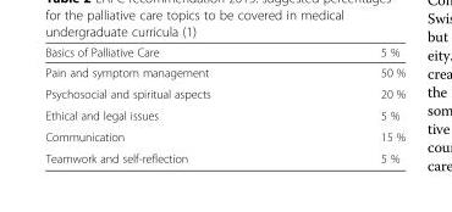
<table><thead><tr><td>Basics of Palliative Care</td><td>5 %</td></tr></thead><tbody><tr><td>Pain and symptom management</td><td>50 %</td></tr><tr><td>Psychosocial and spiritual aspects</td><td>20 %</td></tr><tr><td>Ethical and legal issues</td><td>5 %</td></tr><tr><td>Communication</td><td>15 %</td></tr><tr><td>Teamwork and self-reflection</td><td>5 %</td></tr></tbody></table>